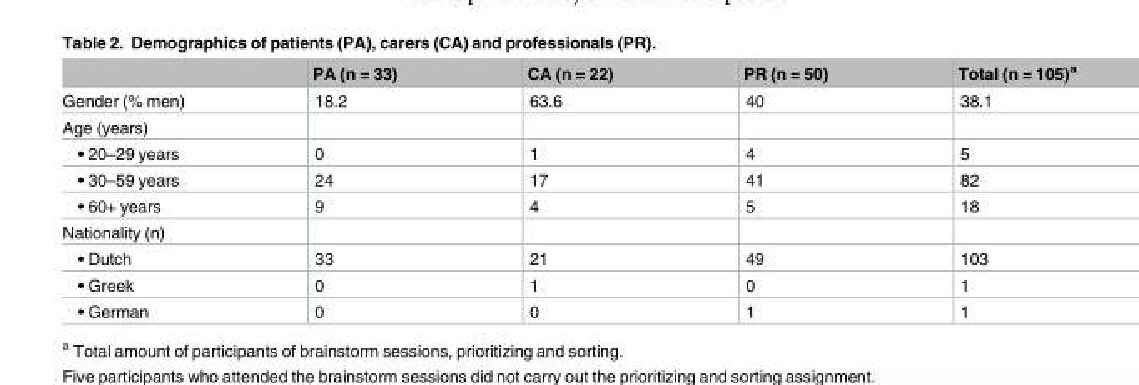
<table><thead><tr><td></td><td>PA (n = 33)</td><td>CA (n = 22)</td><td>PR (n = 50)</td><td>Total (n = 105)<sup>a</sup></td></tr></thead><tbody><tr><td>Gender (% men)</td><td>18.2</td><td>63.6</td><td>40</td><td>38.1</td></tr><tr><td colspan="5">Age (years)</td></tr><tr><td>• 20–29 years</td><td>0</td><td>1</td><td>4</td><td>5</td></tr><tr><td>• 30–59 years</td><td>24</td><td>17</td><td>41</td><td>82</td></tr><tr><td>• 60+ years</td><td>9</td><td>4</td><td>5</td><td>18</td></tr><tr><td colspan="5">Nationality (n)</td></tr><tr><td>• Dutch</td><td>33</td><td>21</td><td>49</td><td>103</td></tr><tr><td>• Greek</td><td>0</td><td>1</td><td>0</td><td>1</td></tr><tr><td>• German</td><td>0</td><td>0</td><td>1</td><td>1</td></tr></tbody></table>